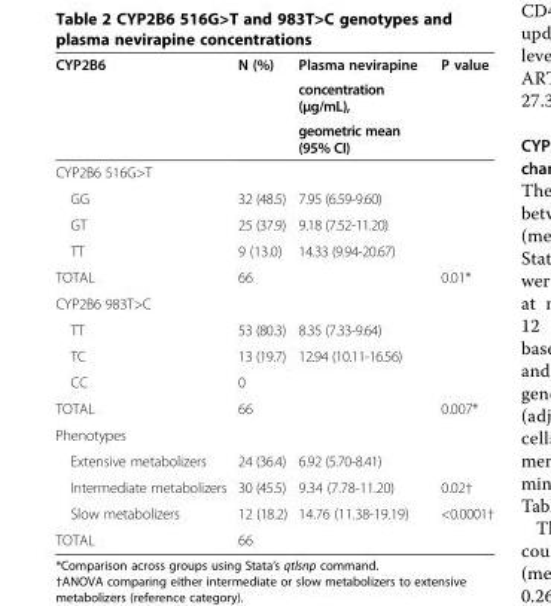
<table><thead><tr><td rowspan="3">CYP2B6</td><td rowspan="3">N (%)</td><td rowspan="3">Plasma nevirapine concentration (μg/mL), geometric mean (95% CI)</td><td rowspan="3">P value</td></tr><tr></tr><tr></tr></thead><tbody><tr><td colspan="4">CYP2B6 516G&gt;T</td></tr><tr><td>GG</td><td>32 (48.5)</td><td>7.95 (6.59-9.60)</td><td></td></tr><tr><td>GT</td><td>25 (37.9)</td><td>9.18 (7.52-11.20)</td><td></td></tr><tr><td>TT</td><td>9 (13.0)</td><td>14.33 (9.94-20.67)</td><td></td></tr><tr><td>TOTAL</td><td>66</td><td></td><td>0.01*</td></tr><tr><td colspan="4">CYP2B6 983T&gt;C</td></tr><tr><td>TT</td><td>53 (80.3)</td><td>8.35 (7.33-9.64)</td><td></td></tr><tr><td>TC</td><td>13 (19.7)</td><td>12.94 (10.11-16.56)</td><td></td></tr><tr><td>CC</td><td>0</td><td></td><td></td></tr><tr><td>TOTAL</td><td>66</td><td></td><td>0.007*</td></tr><tr><td colspan="4">Phenotypes</td></tr><tr><td>Extensive metabolizers</td><td>24 (36.4)</td><td>6.92 (5.70-8.41)</td><td></td></tr><tr><td>Intermediate metabolizers</td><td>30 (45.5)</td><td>9.34 (7.78-11.20)</td><td>0.02†</td></tr><tr><td>Slow metabolizers</td><td>12 (18.2)</td><td>14.76 (11.38-19.19)</td><td>&lt;0.0001†</td></tr><tr><td>TOTAL</td><td>66</td><td></td><td></td></tr></tbody></table>